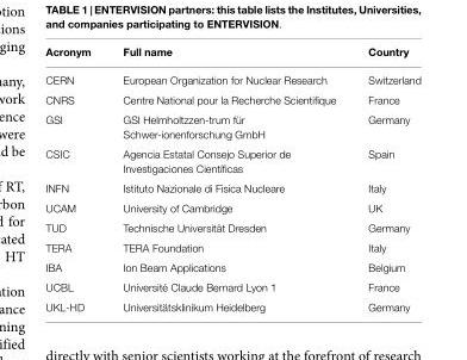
<table><thead><tr><td>Acronym</td><td>Full name</td><td>Country</td></tr></thead><tbody><tr><td>CERN</td><td>European Organization for Nuclear Research</td><td>Switzerland</td></tr><tr><td>CNRS</td><td>Centre National pour la Recherche Scientifique</td><td>France</td></tr><tr><td>GSI</td><td>GSI Helmholtzzen-trum für Schwer-ionenforschung GmbH</td><td>Germany</td></tr><tr><td>CSIC</td><td>Agencia Estatal Consejo Superior de Investigaciones Científicas</td><td>Spain</td></tr><tr><td>INFN</td><td>Istituto Nazionale di Fisica Nucleare</td><td>Italy</td></tr><tr><td>UCAM</td><td>University of Cambridge</td><td>UK</td></tr><tr><td>TUD</td><td>Technische Universität Dresden</td><td>Germany</td></tr><tr><td>TERA</td><td>TERA Foundation</td><td>Italy</td></tr><tr><td>IBA</td><td>Ion Beam Applications</td><td>Belgium</td></tr><tr><td>UCBL</td><td>Université Claude Bernard Lyon 1</td><td>France</td></tr><tr><td>UKL-HD</td><td>Universitätsklinikum Heidelberg</td><td>Germany</td></tr></tbody></table>